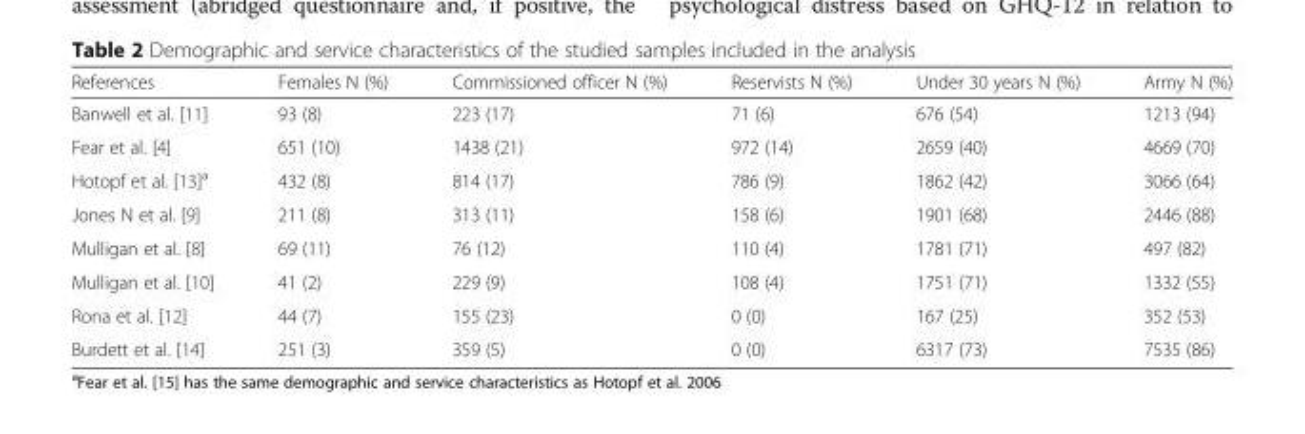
<table><thead><tr><td>References</td><td>Females N (%)</td><td>Commissioned officer N (%)</td><td>Reservists N (%)</td><td>Under 30 years N (%)</td><td>Army N (%)</td></tr></thead><tbody><tr><td>Banwell et al. [11]</td><td>93 (8)</td><td>223 (17)</td><td>71 (6)</td><td>676 (54)</td><td>1213 (94)</td></tr><tr><td>Fear et al. [4]</td><td>651 (10)</td><td>1438 (21)</td><td>972 (14)</td><td>2659 (40)</td><td>4669 (70)</td></tr><tr><td>Hotopf et al. [13]<sup>a</sup></td><td>432 (8)</td><td>814 (17)</td><td>786 (9)</td><td>1862 (42)</td><td>3066 (64)</td></tr><tr><td>Jones N et al. [9]</td><td>211 (8)</td><td>313 (11)</td><td>158 (6)</td><td>1901 (68)</td><td>2446 (88)</td></tr><tr><td>Mulligan et al. [8]</td><td>69 (11)</td><td>76 (12)</td><td>110 (4)</td><td>1781 (71)</td><td>497 (82)</td></tr><tr><td>Mulligan et al. [10]</td><td>41 (2)</td><td>229 (9)</td><td>108 (4)</td><td>1751 (71)</td><td>1332 (55)</td></tr><tr><td>Rona et al. [12]</td><td>44 (7)</td><td>155 (23)</td><td>0 (0)</td><td>167 (25)</td><td>352 (53)</td></tr><tr><td>Burdett et al. [14]</td><td>251 (3)</td><td>359 (5)</td><td>0 (0)</td><td>6317 (73)</td><td>7535 (86)</td></tr></tbody></table>